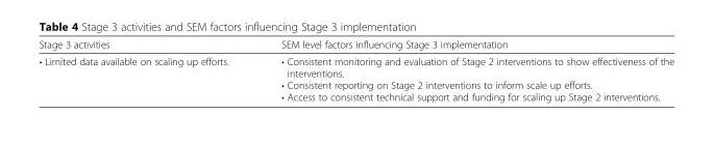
<table><thead><tr><td>Stage 3 activities</td><td>SEM level factors influencing Stage 3 implementation</td></tr></thead><tbody><tr><td>• Limited data available on scaling up efforts.</td><td>• Consistent monitoring and evaluation of Stage 2 interventions to show effectiveness of the interventions. • Consistent reporting on Stage 2 interventions to inform scale up efforts. • Access to consistent technical support and funding for scaling up Stage 2 interventions.</td></tr></tbody></table>